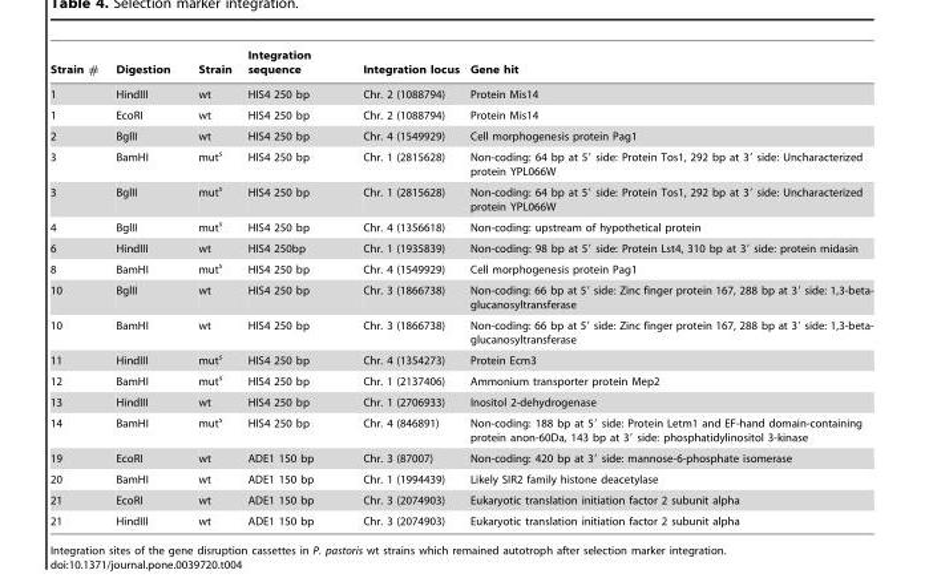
<table><thead><tr><td>Strain #</td><td>Digestion</td><td>Strain</td><td>Integration sequence</td><td>Integration locus</td><td>Gene hit</td></tr></thead><tbody><tr><td>1</td><td>HindIII</td><td>wt</td><td>HIS4 250 bp</td><td>Chr. 2 (1088794)</td><td>Protein Mis14</td></tr><tr><td>1</td><td>EcoRI</td><td>wt</td><td>HIS4 250 bp</td><td>Chr. 2 (1088794)</td><td>Protein Mis14</td></tr><tr><td>2</td><td>BglII</td><td>wt</td><td>HIS4 250 bp</td><td>Chr. 4 (1549929)</td><td>Cell morphogenesis protein Pag1</td></tr><tr><td>3</td><td>BamHI</td><td>mut<sup>s</sup></td><td>HIS4 250 bp</td><td>Chr. 1 (2815628)</td><td>Non-coding: 64 bp at 5′ side: Protein Tos1, 292 bp at 3′ side: Uncharacterized protein YPL066W</td></tr><tr><td>3</td><td>BglII</td><td>mut<sup>s</sup></td><td>HIS4 250 bp</td><td>Chr. 1 (2815628)</td><td>Non-coding: 64 bp at 5′ side: Protein Tos1, 292 bp at 3′ side: Uncharacterized protein YPL066W</td></tr><tr><td>4</td><td>BglII</td><td>mut<sup>s</sup></td><td>HIS4 250 bp</td><td>Chr. 4 (1356618)</td><td>Non-coding: upstream of hypothetical protein</td></tr><tr><td>6</td><td>HindIII</td><td>wt</td><td>HIS4 250bp</td><td>Chr. 1 (1935839)</td><td>Non-coding: 98 bp at 5′ side: Protein Lst4, 310 bp at 3′ side: protein midasin</td></tr><tr><td>8</td><td>BamHI</td><td>mut<sup>s</sup></td><td>HIS4 250 bp</td><td>Chr. 4 (1549929)</td><td>Cell morphogenesis protein Pag1</td></tr><tr><td>10</td><td>BglII</td><td>wt</td><td>HIS4 250 bp</td><td>Chr. 3 (1866738)</td><td>Non-coding: 66 bp at 5′ side: Zinc finger protein 167, 288 bp at 3′ side: 1,3-beta- glucanosyltransferase</td></tr><tr><td>10</td><td>BamHI</td><td>wt</td><td>HIS4 250 bp</td><td>Chr. 3 (1866738)</td><td>Non-coding: 66 bp at 5′ side: Zinc finger protein 167, 288 bp at 3′ side: 1,3-beta- glucanosyltransferase</td></tr><tr><td>11</td><td>HindIII</td><td>mut<sup>s</sup></td><td>HIS4 250 bp</td><td>Chr. 4 (1354273)</td><td>Protein Ecm3</td></tr><tr><td>12</td><td>BamHI</td><td>mut<sup>s</sup></td><td>HIS4 250 bp</td><td>Chr. 1 (2137406)</td><td>Ammonium transporter protein Mep2</td></tr><tr><td>13</td><td>HindIII</td><td>wt</td><td>HIS4 250 bp</td><td>Chr. 1 (2706933)</td><td>Inositol 2-dehydrogenase</td></tr><tr><td>14</td><td>BamHI</td><td>mut<sup>s</sup></td><td>HIS4 250 bp</td><td>Chr. 4 (846891)</td><td>Non-coding: 188 bp at 5′ side: Protein Letm1 and EF-hand domain-containing protein anon-60Da, 143 bp at 3′ side: phosphatidylinositol 3-kinase</td></tr><tr><td>19</td><td>EcoRI</td><td>wt</td><td>ADE1 150 bp</td><td>Chr. 3 (87007)</td><td>Non-coding: 420 bp at 3′ side: mannose-6-phosphate isomerase</td></tr><tr><td>20</td><td>BamHI</td><td>wt</td><td>ADE1 150 bp</td><td>Chr. 1 (1994439)</td><td>Likely SIR2 family histone deacetylase</td></tr><tr><td>21</td><td>EcoRI</td><td>wt</td><td>ADE1 150 bp</td><td>Chr. 3 (2074903)</td><td>Eukaryotic translation initiation factor 2 subunit alpha</td></tr><tr><td>21</td><td>HindIII</td><td>wt</td><td>ADE1 150 bp</td><td>Chr. 3 (2074903)</td><td>Eukaryotic translation initiation factor 2 subunit alpha</td></tr></tbody></table>